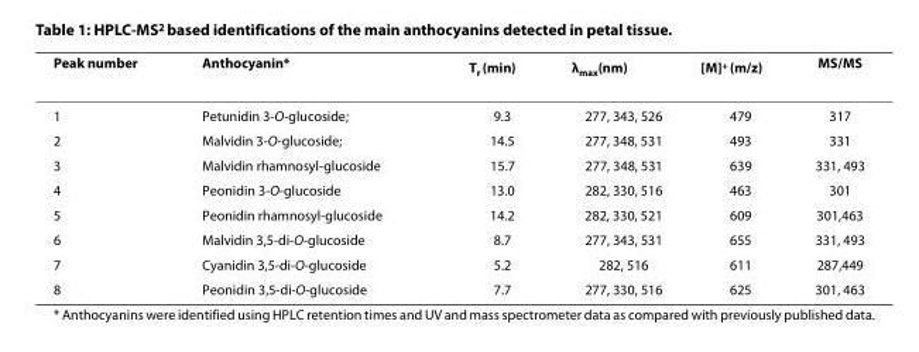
<table><thead><tr><td>Peak number</td><td>Anthocyanin*</td><td>T<sub>r</sub> (min)</td><td>λ<sub>max</sub>(nm)</td><td>[M]<sup>+</sup> (m/z)</td><td>MS/MS</td></tr></thead><tbody><tr><td>1</td><td>Petunidin 3-O-glucoside;</td><td>9.3</td><td>277, 343, 526</td><td>479</td><td>317</td></tr><tr><td>2</td><td>Malvidin 3-O-glucoside;</td><td>14.5</td><td>277, 348, 531</td><td>493</td><td>331</td></tr><tr><td>3</td><td>Malvidin rhamnosyl-glucoside</td><td>15.7</td><td>277, 348, 531</td><td>639</td><td>331, 493</td></tr><tr><td>4</td><td>Peonidin 3-O-glucoside</td><td>13.0</td><td>282, 330, 516</td><td>463</td><td>301</td></tr><tr><td>5</td><td>Peonidin rhamnosyl-glucoside</td><td>14.2</td><td>282, 330, 521</td><td>609</td><td>301,463</td></tr><tr><td>6</td><td>Malvidin 3,5-di-O-glucoside</td><td>8.7</td><td>277, 343, 531</td><td>655</td><td>331, 493</td></tr><tr><td>7</td><td>Cyanidin 3,5-di-O-glucoside</td><td>5.2</td><td>282, 516</td><td>611</td><td>287,449</td></tr><tr><td>8</td><td>Peonidin 3,5-di-O-glucoside</td><td>7.7</td><td>277, 330, 516</td><td>625</td><td>301, 463</td></tr></tbody></table>